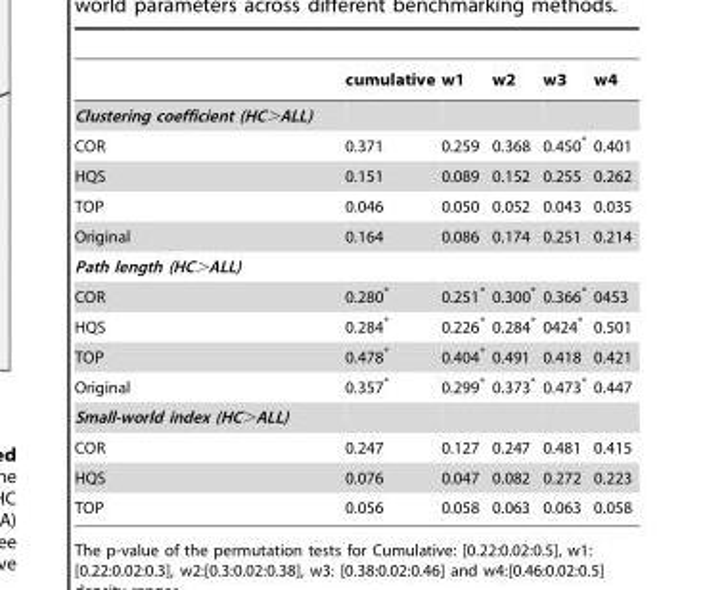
<table><thead><tr><td></td><td>cumulative</td><td>w1</td><td>w2</td><td>w3</td><td>w4</td></tr></thead><tbody><tr><td colspan="6">Clustering coefficient (HC&gt;ALL)</td></tr><tr><td>COR</td><td>0.371</td><td>0.259</td><td>0.368</td><td>0.450*</td><td>0.401</td></tr><tr><td>HQS</td><td>0.151</td><td>0.089</td><td>0.152</td><td>0.255</td><td>0.262</td></tr><tr><td>TOP</td><td>0.046</td><td>0.050</td><td>0.052</td><td>0.043</td><td>0.035</td></tr><tr><td>Original</td><td>0.164</td><td>0.086</td><td>0.174</td><td>0.251</td><td>0.214</td></tr><tr><td colspan="6">Path length (HC&gt;ALL)</td></tr><tr><td>COR</td><td>0.280*</td><td>0.251*</td><td>0.300*</td><td>0.366*</td><td>0453</td></tr><tr><td>HQS</td><td>0.284*</td><td>0.226*</td><td>0.284*</td><td>0424*</td><td>0.501</td></tr><tr><td>TOP</td><td>0.478*</td><td>0.404*</td><td>0.491</td><td>0.418</td><td>0.421</td></tr><tr><td>Original</td><td>0.357*</td><td>0.299*</td><td>0.373*</td><td>0.473*</td><td>0.447</td></tr><tr><td colspan="6">Small-world index (HC&gt;ALL)</td></tr><tr><td>COR</td><td>0.247</td><td>0.127</td><td>0.247</td><td>0.481</td><td>0.415</td></tr><tr><td>HQS</td><td>0.076</td><td>0.047</td><td>0.082</td><td>0.272</td><td>0.223</td></tr><tr><td>TOP</td><td>0.056</td><td>0.058</td><td>0.063</td><td>0.063</td><td>0.058</td></tr></tbody></table>